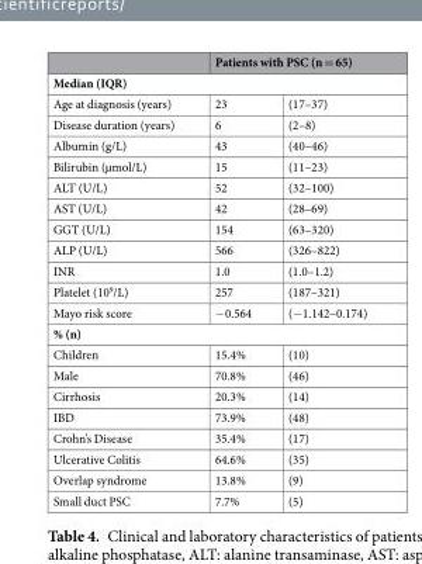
<table><thead><tr><td></td><td colspan="2">Patients with PSC (n = 65)</td></tr><tr><td colspan="3">Median (IQR)</td></tr><tr><td>Age at diagnosis (years)</td><td>23</td><td>(17–37)</td></tr></thead><tbody><tr><td>Disease duration (years)</td><td>6</td><td>(2–8)</td></tr><tr><td>Albumin (g/L)</td><td>43</td><td>(40–46)</td></tr><tr><td>Bilirubin (µmol/L)</td><td>15</td><td>(11–23)</td></tr><tr><td>ALT (U/L)</td><td>52</td><td>(32–100)</td></tr><tr><td>AST (U/L)</td><td>42</td><td>(28–69)</td></tr><tr><td>GGT (U/L)</td><td>154</td><td>(63–320)</td></tr><tr><td>ALP (U/L)</td><td>566</td><td>(326–822)</td></tr><tr><td>INR</td><td>1.0</td><td>(1.0–1.2)</td></tr><tr><td>Platelet (10<sup>9</sup>/L)</td><td>257</td><td>(187–321)</td></tr><tr><td>Mayo risk score</td><td>−0.564</td><td>(−1.142–0.174)</td></tr><tr><td colspan="3">% (n)</td></tr><tr><td>Children</td><td>15.4%</td><td>(10)</td></tr><tr><td>Male</td><td>70.8%</td><td>(46)</td></tr><tr><td>Cirrhosis</td><td>20.3%</td><td>(14)</td></tr><tr><td>IBD</td><td>73.9%</td><td>(48)</td></tr><tr><td>Crohn’s Disease</td><td>35.4%</td><td>(17)</td></tr><tr><td>Ulcerative Colitis</td><td>64.6%</td><td>(35)</td></tr><tr><td>Overlap syndrome</td><td>13.8%</td><td>(9)</td></tr><tr><td>Small duct PSC</td><td>7.7%</td><td>(5)</td></tr></tbody></table>